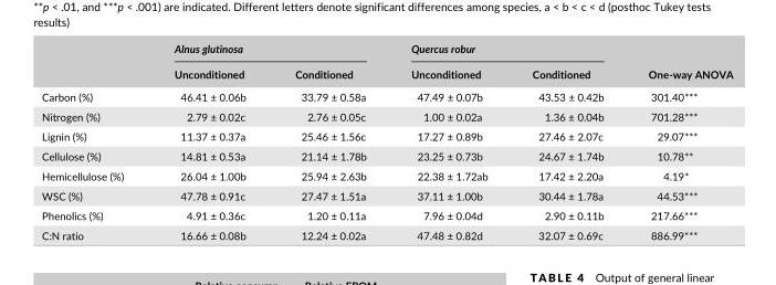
<table><thead><tr><td rowspan="2"></td><td colspan="2">Alnus glutinosa</td><td colspan="2">Quercus robur</td><td rowspan="2">One- way ANOVA</td></tr><tr><td>Unconditioned</td><td>Conditioned</td><td>Unconditioned</td><td>Conditioned</td></tr></thead><tbody><tr><td>Carbon (%)</td><td>46.41 ± 0.06b</td><td>33.79 ± 0.58a</td><td>47.49 ± 0.07b</td><td>43.53 ± 0.42b</td><td>301.40***</td></tr><tr><td>Nitrogen (%)</td><td>2.79 ± 0.02c</td><td>2.76 ± 0.05c</td><td>1.00 ± 0.02a</td><td>1.36 ± 0.04b</td><td>701.28***</td></tr><tr><td>Lignin (%)</td><td>11.37 ± 0.37a</td><td>25.46 ± 1.56c</td><td>17.27 ± 0.89b</td><td>27.46 ± 2.07c</td><td>29.07***</td></tr><tr><td>Cellulose (%)</td><td>14.81 ± 0.53a</td><td>21.14 ± 1.78b</td><td>23.25 ± 0.73b</td><td>24.67 ± 1.74b</td><td>10.78**</td></tr><tr><td>Hemicellulose (%)</td><td>26.04 ± 1.00b</td><td>25.94 ± 2.63b</td><td>22.38 ± 1.72ab</td><td>17.42 ± 2.20a</td><td>4.19*</td></tr><tr><td>WSC (%)</td><td>47.78 ± 0.91c</td><td>27.47 ± 1.51a</td><td>37.11 ± 1.00b</td><td>30.44 ± 1.78a</td><td>44.53***</td></tr><tr><td>Phenolics (%)</td><td>4.91 ± 0.36c</td><td>1.20 ± 0.11a</td><td>7.96 ± 0.04d</td><td>2.90 ± 0.11b</td><td>217.66***</td></tr><tr><td>C:N ratio</td><td>16.66 ± 0.08b</td><td>12.24 ± 0.02a</td><td>47.48 ± 0.82d</td><td>32.07 ± 0.69c</td><td>886.99***</td></tr></tbody></table>